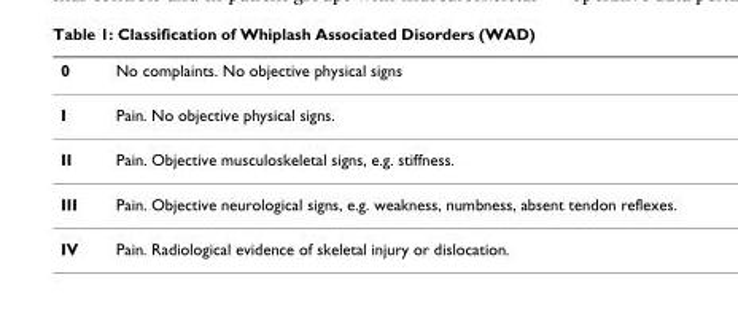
<table><thead><tr><td>0</td><td>No complaints. No objective physical signs</td></tr></thead><tbody><tr><td>I</td><td>Pain. No objective physical signs.</td></tr><tr><td>II</td><td>Pain. Objective musculoskeletal signs, e.g. stiffness.</td></tr><tr><td>III</td><td>Pain. Objective neurological signs, e.g. weakness, numbness, absent tendon reflexes.</td></tr><tr><td>IV</td><td>Pain. Radiological evidence of skeletal injury or dislocation.</td></tr></tbody></table>